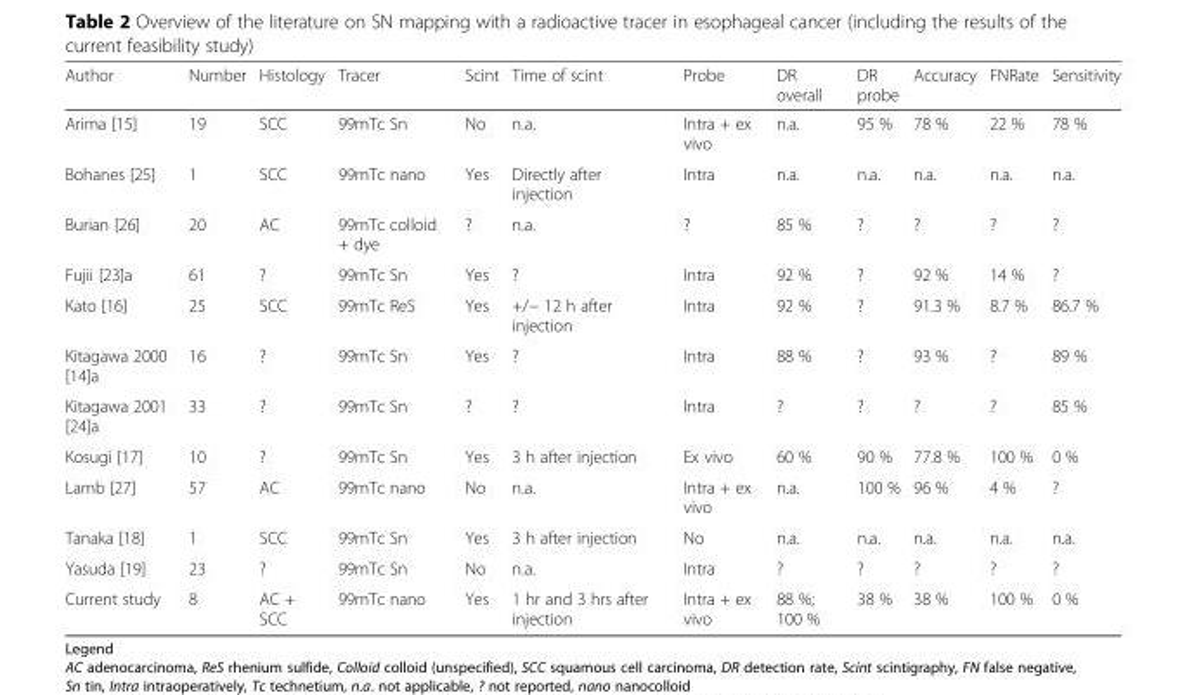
<table><thead><tr><td>Author</td><td>Number</td><td>Histology</td><td>Tracer</td><td>Scint</td><td>Time of scint</td><td>Probe</td><td>DR overall</td><td>DR probe</td><td>Accuracy</td><td>FNRate</td><td>Sensitivity</td></tr></thead><tbody><tr><td>Arima [15]</td><td>19</td><td>SCC</td><td>99mTc Sn</td><td>No</td><td>n.a.</td><td>Intra + ex vivo</td><td>n.a.</td><td>95 %</td><td>78 %</td><td>22 %</td><td>78 %</td></tr><tr><td>Bohanes [25]</td><td>1</td><td>SCC</td><td>99mTc nano</td><td>Yes</td><td>Directly after injection</td><td>Intra</td><td>n.a.</td><td>n.a.</td><td>n.a.</td><td>n.a.</td><td>n.a.</td></tr><tr><td>Burian [26]</td><td>20</td><td>AC</td><td>99mTc colloid + dye</td><td>?</td><td>n.a.</td><td>?</td><td>85 %</td><td>?</td><td>?</td><td>?</td><td>?</td></tr><tr><td>Fujii [23]a</td><td>61</td><td>?</td><td>99mTc Sn</td><td>Yes</td><td>?</td><td>Intra</td><td>92 %</td><td>?</td><td>92 %</td><td>14 %</td><td>?</td></tr><tr><td>Kato [16]</td><td>25</td><td>SCC</td><td>99mTc ReS</td><td>Yes</td><td>+/− 12 h after injection</td><td>Intra</td><td>92 %</td><td>?</td><td>91.3 %</td><td>8.7 %</td><td>86.7 %</td></tr><tr><td>Kitagawa 2000 [14]a</td><td>16</td><td>?</td><td>99mTc Sn</td><td>Yes</td><td>?</td><td>Intra</td><td>88 %</td><td>?</td><td>93 %</td><td>?</td><td>89 %</td></tr><tr><td>Kitagawa 2001 [24]a</td><td>33</td><td>?</td><td>99mTc Sn</td><td>?</td><td>?</td><td>Intra</td><td>?</td><td>?</td><td>?</td><td>?</td><td>85 %</td></tr><tr><td>Kosugi [17]</td><td>10</td><td>?</td><td>99mTc Sn</td><td>Yes</td><td>3 h after injection</td><td>Ex vivo</td><td>60 %</td><td>90 %</td><td>77.8 %</td><td>100 %</td><td>0 %</td></tr><tr><td>Lamb [27]</td><td>57</td><td>AC</td><td>99mTc nano</td><td>No</td><td>n.a.</td><td>Intra + ex vivo</td><td>n.a.</td><td>100 %</td><td>96 %</td><td>4 %</td><td>?</td></tr><tr><td>Tanaka [18]</td><td>1</td><td>SCC</td><td>99mTc Sn</td><td>Yes</td><td>3 h after injection</td><td>No</td><td>n.a.</td><td>n.a.</td><td>n.a.</td><td>n.a.</td><td>n.a.</td></tr><tr><td>Yasuda [19]</td><td>23</td><td>?</td><td>99mTc Sn</td><td>No</td><td>n.a.</td><td>Intra</td><td>?</td><td>?</td><td>?</td><td>?</td><td>?</td></tr><tr><td>Current study</td><td>8</td><td>AC + SCC</td><td>99mTc nano</td><td>Yes</td><td>1 hr and 3 hrs after injection</td><td>Intra + ex vivo</td><td>88 %; 100 %</td><td>38 %</td><td>38 %</td><td>100 %</td><td>0 %</td></tr></tbody></table>